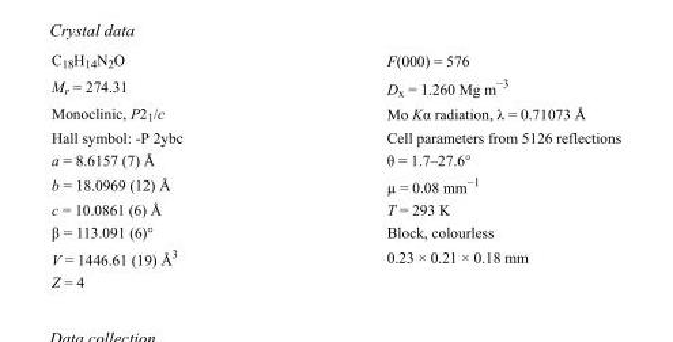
<table><tbody><tr><td>C<sub>18</sub>H<sub>14</sub>N<sub>2</sub>O</td><td>F(000) = 576</td></tr><tr><td>M<sub>r</sub> = 274.31</td><td>D<sub>x</sub> = 1.260 Mg m<sup>−3</sup></td></tr><tr><td>Monoclinic, P2<sub>1</sub>/c</td><td>Mo Kα radiation, λ = 0.71073 Å</td></tr><tr><td>Hall symbol: -P 2ybc</td><td>Cell parameters from 5126 reflections</td></tr><tr><td>a = 8.6157 (7) Å</td><td>θ = 1.7–27.6°</td></tr><tr><td>b = 18.0969 (12) Å</td><td>µ = 0.08 mm<sup>−1</sup></td></tr><tr><td>c = 10.0861 (6) Å</td><td>T = 293 K</td></tr><tr><td>β = 113.091 (6)°</td><td>Block, colourless</td></tr><tr><td>V = 1446.61 (19) Å<sup>3</sup></td><td>0.23 × 0.21 × 0.18 mm</td></tr><tr><td>Z = 4</td><td></td></tr></tbody></table>